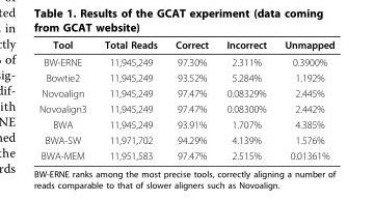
<table><thead><tr><td>Tool</td><td>Total Reads</td><td>Correct</td><td>Incorrect</td><td>Unmapped</td></tr></thead><tbody><tr><td>BW-ERNE</td><td>11,945,249</td><td>97.30%</td><td>2.311%</td><td>0.3900%</td></tr><tr><td>Bowtie2</td><td>11,945,249</td><td>93.52%</td><td>5.284%</td><td>1.192%</td></tr><tr><td>Novoalign</td><td>11,945,249</td><td>97.47%</td><td>0.08329%</td><td>2.445%</td></tr><tr><td>Novoalign3</td><td>11,945,249</td><td>97.47%</td><td>0.08300%</td><td>2.442%</td></tr><tr><td>BWA</td><td>11,945,249</td><td>93.91%</td><td>1.707%</td><td>4.385%</td></tr><tr><td>BWA-SW</td><td>11,971,702</td><td>94.29%</td><td>4.139%</td><td>1.576%</td></tr><tr><td>BWA-MEM</td><td>11,951,583</td><td>97.47%</td><td>2.515%</td><td>0.01361%</td></tr></tbody></table>